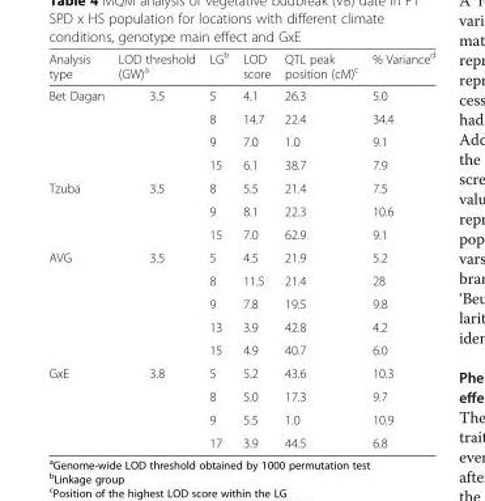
<table><thead><tr><td>Analysis type</td><td>LOD threshold (GW)<sup>a</sup></td><td>LG<sup>b</sup></td><td>LOD score</td><td>QTL peak position (cM)<sup>c</sup></td><td>% Variance<sup>d</sup></td></tr></thead><tbody><tr><td rowspan="4">Bet Dagan</td><td rowspan="4">3.5</td><td>5</td><td>4.1</td><td>26.3</td><td>5.0</td></tr><tr><td>8</td><td>14.7</td><td>22.4</td><td>34.4</td></tr><tr><td>9</td><td>7.0</td><td>1.0</td><td>9.1</td></tr><tr><td>15</td><td>6.1</td><td>38.7</td><td>7.9</td></tr><tr><td rowspan="3">Tzuba</td><td rowspan="3">3.5</td><td>8</td><td>5.5</td><td>21.4</td><td>7.5</td></tr><tr><td>9</td><td>8.1</td><td>22.3</td><td>10.6</td></tr><tr><td>15</td><td>7.0</td><td>62.9</td><td>9.1</td></tr><tr><td rowspan="5">AVG</td><td rowspan="5">3.5</td><td>5</td><td>4.5</td><td>21.9</td><td>5.2</td></tr><tr><td>8</td><td>11.5</td><td>21.4</td><td>28</td></tr><tr><td>9</td><td>7.8</td><td>19.5</td><td>9.8</td></tr><tr><td>13</td><td>3.9</td><td>42.8</td><td>4.2</td></tr><tr><td>15</td><td>4.9</td><td>40.7</td><td>6.0</td></tr><tr><td rowspan="4">GxE</td><td rowspan="4">3.8</td><td>5</td><td>5.2</td><td>43.6</td><td>10.3</td></tr><tr><td>8</td><td>5.0</td><td>17.3</td><td>9.7</td></tr><tr><td>9</td><td>5.5</td><td>1.0</td><td>10.9</td></tr><tr><td>17</td><td>3.9</td><td>44.5</td><td>6.8</td></tr></tbody></table>